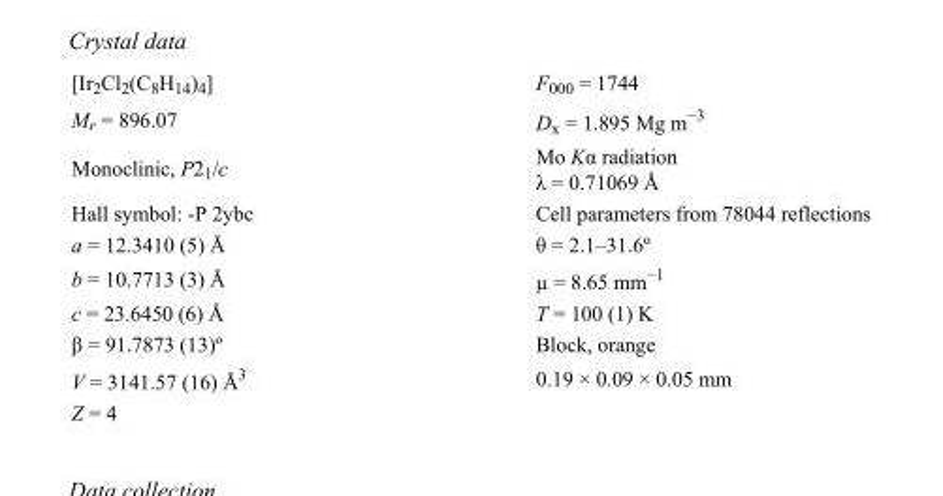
<table><tbody><tr><td>[Ir<sub>2</sub>Cl<sub>2</sub>(C<sub>8</sub>H<sub>14</sub>)<sub>4</sub>]</td><td>F<sub>000</sub> = 1744</td></tr><tr><td>M<sub>r</sub> = 896.07</td><td>D<sub>x</sub> = 1.895 Mg m<sup>−3</sup></td></tr><tr><td>Monoclinic, P2<sub>1</sub>/c</td><td>Mo Kα radiation λ = 0.71069 Å</td></tr><tr><td>Hall symbol: -P 2ybc</td><td>Cell parameters from 78044 reflections</td></tr><tr><td>a = 12.3410 (5) Å</td><td>θ = 2.1–31.6º</td></tr><tr><td>b = 10.7713 (3) Å</td><td>µ = 8.65 mm<sup>−1</sup></td></tr><tr><td>c = 23.6450 (6) Å</td><td>T = 100 (1) K</td></tr><tr><td>β = 91.7873 (13)º</td><td>Block, orange</td></tr><tr><td>V = 3141.57 (16) Å<sup>3</sup></td><td>0.19 × 0.09 × 0.05 mm</td></tr><tr><td>Z = 4</td><td></td></tr></tbody></table>